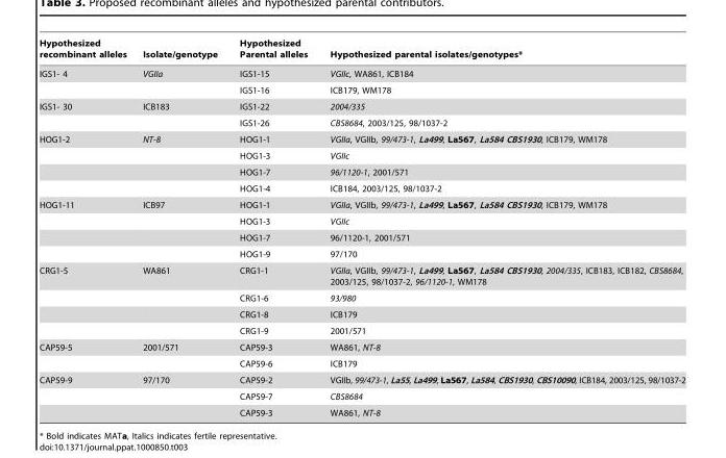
<table><thead><tr><td>Hypothesized recombinant alleles</td><td>Isolate/genotype</td><td>Hypothesized Parental alleles</td><td>Hypothesized parental isolates/genotypes*</td></tr></thead><tbody><tr><td rowspan="2">IGS1- 4</td><td>VGIIa</td><td>IGS1-15</td><td>VGIIc, WA861, ICB184</td></tr><tr><td></td><td>IGS1-16</td><td>ICB179, WM178</td></tr><tr><td rowspan="2">IGS1- 30</td><td>ICB183</td><td>IGS1-22</td><td>2004/335</td></tr><tr><td></td><td>IGS1-26</td><td>CBS8684, 2003/125, 98/1037-2</td></tr><tr><td rowspan="4">HOG1-2</td><td>NT-8</td><td>HOG1-1</td><td>VGIIa, VGIIb, 99/473-1, La499, La567, La584 CBS1930, ICB179, WM178</td></tr><tr><td></td><td>HOG1-3</td><td>VGIIc</td></tr><tr><td></td><td>HOG1-7</td><td>96/1120-1, 2001/571</td></tr><tr><td></td><td>HOG1-4</td><td>ICB184, 2003/125, 98/1037-2</td></tr><tr><td rowspan="4">HOG1-11</td><td>ICB97</td><td>HOG1-1</td><td>VGIIa, VGIIb, 99/473-1, La499, La567, La584 CBS1930, ICB179, WM178</td></tr><tr><td></td><td>HOG1-3</td><td>VGIIc</td></tr><tr><td></td><td>HOG1-7</td><td>96/1120-1, 2001/571</td></tr><tr><td></td><td>HOG1-9</td><td>97/170</td></tr><tr><td rowspan="4">CRG1-5</td><td>WA861</td><td>CRG1-1</td><td>VGIIa, VGIIb, 99/473-1, La499, La567, La584 CBS1930, 2004/335, ICB183, ICB182, CBS8684, 2003/125, 98/1037-2, 96/1120-1, WM178</td></tr><tr><td></td><td>CRG1-6</td><td>93/980</td></tr><tr><td></td><td>CRG1-8</td><td>ICB179</td></tr><tr><td></td><td>CRG1-9</td><td>2001/571</td></tr><tr><td rowspan="2">CAP59-5</td><td>2001/571</td><td>CAP59-3</td><td>WA861, NT-8</td></tr><tr><td></td><td>CAP59-6</td><td>ICB179</td></tr><tr><td rowspan="3">CAP59-9</td><td>97/170</td><td>CAP59-2</td><td>VGIIb, 99/473-1, La55, La499, La567, La584, CBS1930, CBS10090, ICB184, 2003/125, 98/1037-2</td></tr><tr><td></td><td>CAP59-7</td><td>CBS8684</td></tr><tr><td></td><td>CAP59-3</td><td>WA861, NT-8</td></tr></tbody></table>